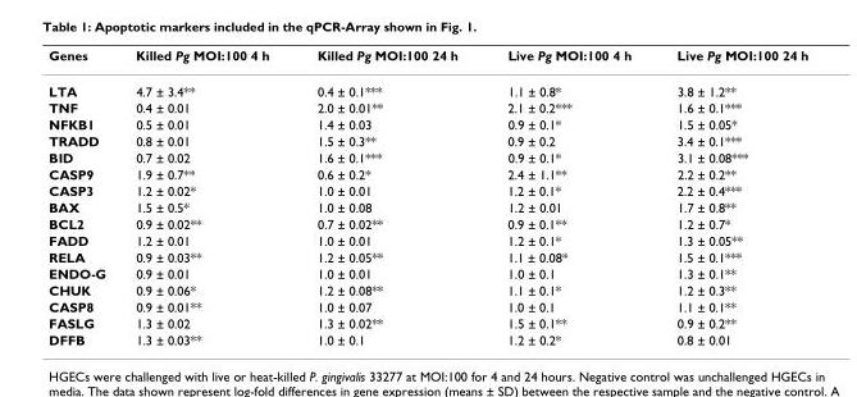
<table><thead><tr><td>Genes</td><td>Killed Pg MOI:100 4 h</td><td>Killed Pg MOI:100 24 h</td><td>Live Pg MOI:100 4 h</td><td>Live Pg MOI:100 24 h</td></tr></thead><tbody><tr><td>LTA</td><td>4.7 ± 3.4**</td><td>0.4 ± 0.1***</td><td>1.1 ± 0.8*</td><td>3.8 ± 1.2**</td></tr><tr><td>TNF</td><td>0.4 ± 0.01</td><td>2.0 ± 0.01**</td><td>2.1 ± 0.2***</td><td>1.6 ± 0.1***</td></tr><tr><td>NFKB1</td><td>0.5 ± 0.01</td><td>1.4 ± 0.03</td><td>0.9 ± 0.1*</td><td>1.5 ± 0.05*</td></tr><tr><td>TRADD</td><td>0.8 ± 0.01</td><td>1.5 ± 0.3**</td><td>0.9 ± 0.2</td><td>3.4 ± 0.1***</td></tr><tr><td>BID</td><td>0.7 ± 0.02</td><td>1.6 ± 0.1***</td><td>0.9 ± 0.1*</td><td>3.1 ± 0.08***</td></tr><tr><td>CASP9</td><td>1.9 ± 0.7**</td><td>0.6 ± 0.2*</td><td>2.4 ± 1.1**</td><td>2.2 ± 0.2**</td></tr><tr><td>CASP3</td><td>1.2 ± 0.02*</td><td>1.0 ± 0.01</td><td>1.2 ± 0.1*</td><td>2.2 ± 0.4***</td></tr><tr><td>BAX</td><td>1.5 ± 0.5*</td><td>1.0 ± 0.08</td><td>1.2 ± 0.01</td><td>1.7 ± 0.8**</td></tr><tr><td>BCL2</td><td>0.9 ± 0.02**</td><td>0.7 ± 0.02**</td><td>0.9 ± 0.1**</td><td>1.2 ± 0.7*</td></tr><tr><td>FADD</td><td>1.2 ± 0.01</td><td>1.0 ± 0.01</td><td>1.2 ± 0.1*</td><td>1.3 ± 0.05**</td></tr><tr><td>RELA</td><td>0.9 ± 0.03**</td><td>1.2 ± 0.05**</td><td>1.1 ± 0.08*</td><td>1.5 ± 0.1***</td></tr><tr><td>ENDO-G</td><td>0.9 ± 0.01</td><td>1.0 ± 0.01</td><td>1.0 ± 0.1</td><td>1.3 ± 0.1**</td></tr><tr><td>CHUK</td><td>0.9 ± 0.06*</td><td>1.2 ± 0.08**</td><td>1.1 ± 0.1*</td><td>1.2 ± 0.3**</td></tr><tr><td>CASP8</td><td>0.9 ± 0.01**</td><td>1.0 ± 0.07</td><td>1.0 ± 0.1</td><td>1.1 ± 0.1**</td></tr><tr><td>FASLG</td><td>1.3 ± 0.02</td><td>1.3 ± 0.02**</td><td>1.5 ± 0.1**</td><td>0.9 ± 0.2**</td></tr><tr><td>DFFB</td><td>1.3 ± 0.03**</td><td>1.0 ± 0.1</td><td>1.2 ± 0.2*</td><td>0.8 ± 0.01</td></tr></tbody></table>